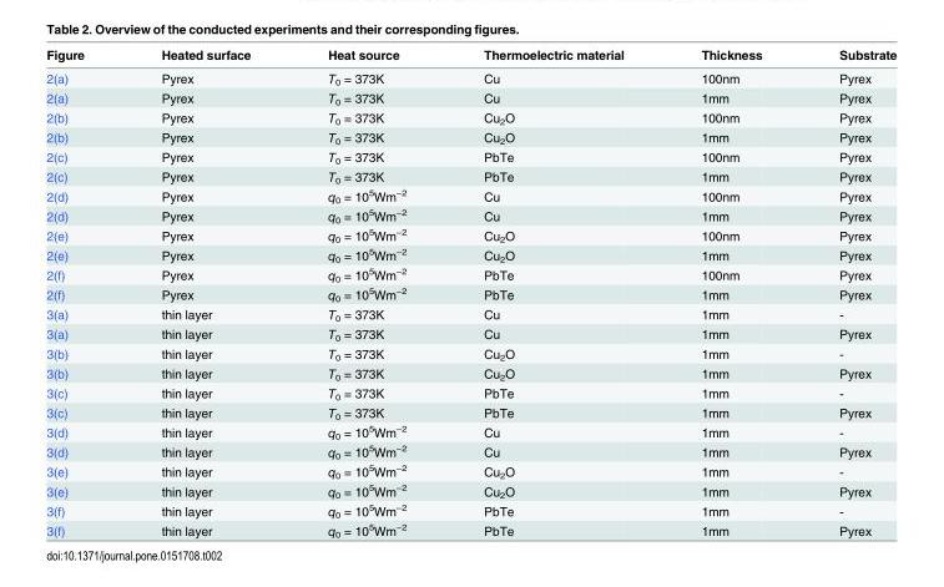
<table><thead><tr><td>Figure</td><td>Heated surface</td><td>Heat source</td><td>Thermoelectric material</td><td>Thickness</td><td>Substrate</td></tr></thead><tbody><tr><td>2(a)</td><td>Pyrex</td><td>T<sub>0</sub> = 373K</td><td>Cu</td><td>100nm</td><td>Pyrex</td></tr><tr><td>2(a)</td><td>Pyrex</td><td>T<sub>0</sub> = 373K</td><td>Cu</td><td>1mm</td><td>Pyrex</td></tr><tr><td>2(b)</td><td>Pyrex</td><td>T<sub>0</sub> = 373K</td><td>Cu<sub>2</sub>O</td><td>100nm</td><td>Pyrex</td></tr><tr><td>2(b)</td><td>Pyrex</td><td>T<sub>0</sub> = 373K</td><td>Cu<sub>2</sub>O</td><td>1mm</td><td>Pyrex</td></tr><tr><td>2(c)</td><td>Pyrex</td><td>T<sub>0</sub> = 373K</td><td>PbTe</td><td>100nm</td><td>Pyrex</td></tr><tr><td>2(c)</td><td>Pyrex</td><td>T<sub>0</sub> = 373K</td><td>PbTe</td><td>1mm</td><td>Pyrex</td></tr><tr><td>2(d)</td><td>Pyrex</td><td>q<sub>0</sub> = 10<sup>5</sup>Wm<sup>−2</sup></td><td>Cu</td><td>100nm</td><td>Pyrex</td></tr><tr><td>2(d)</td><td>Pyrex</td><td>q<sub>0</sub> = 10<sup>5</sup>Wm<sup>−2</sup></td><td>Cu</td><td>1mm</td><td>Pyrex</td></tr><tr><td>2(e)</td><td>Pyrex</td><td>q<sub>0</sub> = 10<sup>5</sup>Wm<sup>−2</sup></td><td>Cu<sub>2</sub>O</td><td>100nm</td><td>Pyrex</td></tr><tr><td>2(e)</td><td>Pyrex</td><td>q<sub>0</sub> = 10<sup>5</sup>Wm<sup>−2</sup></td><td>Cu<sub>2</sub>O</td><td>1mm</td><td>Pyrex</td></tr><tr><td>2(f)</td><td>Pyrex</td><td>q<sub>0</sub> = 10<sup>5</sup>Wm<sup>−2</sup></td><td>PbTe</td><td>100nm</td><td>Pyrex</td></tr><tr><td>2(f)</td><td>Pyrex</td><td>q<sub>0</sub> = 10<sup>5</sup>Wm<sup>−2</sup></td><td>PbTe</td><td>1mm</td><td>Pyrex</td></tr><tr><td>3(a)</td><td>thin layer</td><td>T<sub>0</sub> = 373K</td><td>Cu</td><td>1mm</td><td>-</td></tr><tr><td>3(a)</td><td>thin layer</td><td>T<sub>0</sub> = 373K</td><td>Cu</td><td>1mm</td><td>Pyrex</td></tr><tr><td>3(b)</td><td>thin layer</td><td>T<sub>0</sub> = 373K</td><td>Cu<sub>2</sub>O</td><td>1mm</td><td>-</td></tr><tr><td>3(b)</td><td>thin layer</td><td>T<sub>0</sub> = 373K</td><td>Cu<sub>2</sub>O</td><td>1mm</td><td>Pyrex</td></tr><tr><td>3(c)</td><td>thin layer</td><td>T<sub>0</sub> = 373K</td><td>PbTe</td><td>1mm</td><td>-</td></tr><tr><td>3(c)</td><td>thin layer</td><td>T<sub>0</sub> = 373K</td><td>PbTe</td><td>1mm</td><td>Pyrex</td></tr><tr><td>3(d)</td><td>thin layer</td><td>q<sub>0</sub> = 10<sup>5</sup>Wm<sup>−2</sup></td><td>Cu</td><td>1mm</td><td>-</td></tr><tr><td>3(d)</td><td>thin layer</td><td>q<sub>0</sub> = 10<sup>5</sup>Wm<sup>−2</sup></td><td>Cu</td><td>1mm</td><td>Pyrex</td></tr><tr><td>3(e)</td><td>thin layer</td><td>q<sub>0</sub> = 10<sup>5</sup>Wm<sup>−2</sup></td><td>Cu<sub>2</sub>O</td><td>1mm</td><td>-</td></tr><tr><td>3(e)</td><td>thin layer</td><td>q<sub>0</sub> = 10<sup>5</sup>Wm<sup>−2</sup></td><td>Cu<sub>2</sub>O</td><td>1mm</td><td>Pyrex</td></tr><tr><td>3(f)</td><td>thin layer</td><td>q<sub>0</sub> = 10<sup>5</sup>Wm<sup>−2</sup></td><td>PbTe</td><td>1mm</td><td>-</td></tr><tr><td>3(f)</td><td>thin layer</td><td>q<sub>0</sub> = 10<sup>5</sup>Wm<sup>−2</sup></td><td>PbTe</td><td>1mm</td><td>Pyrex</td></tr></tbody></table>